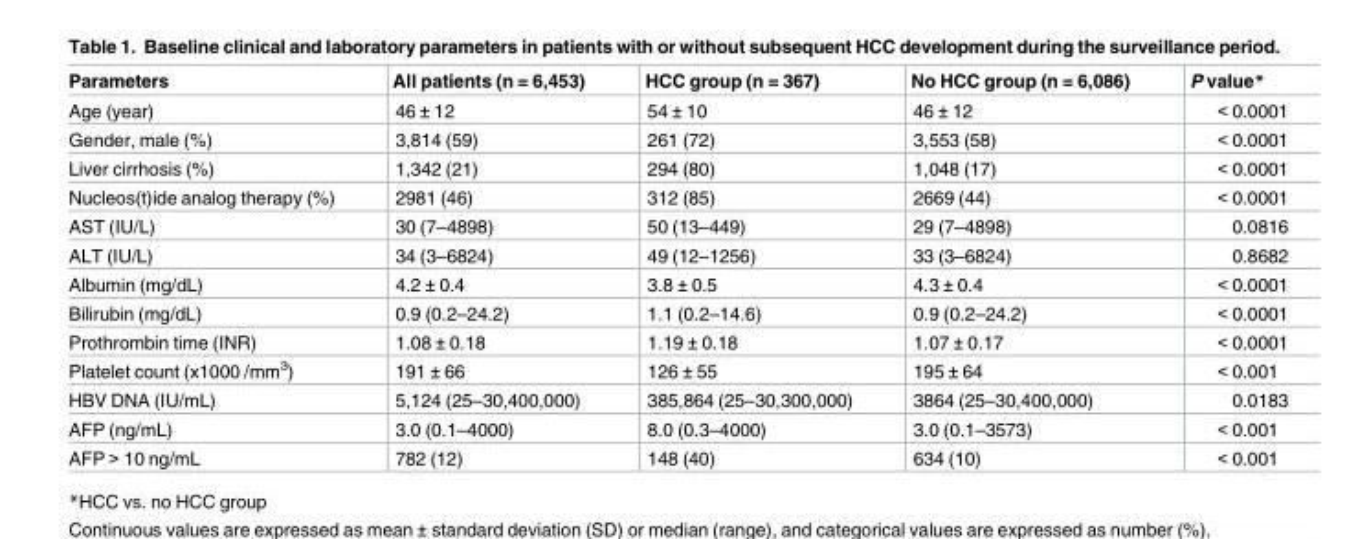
<table><thead><tr><td>Parameters</td><td>All patients (n = 6,453)</td><td>HCC group (n = 367)</td><td>No HCC group (n = 6,086)</td><td>P value*</td></tr></thead><tbody><tr><td>Age (year)</td><td>46 ± 12</td><td>54 ± 10</td><td>46 ± 12</td><td>&lt; 0.0001</td></tr><tr><td>Gender, male (%)</td><td>3,814 (59)</td><td>261 (72)</td><td>3,553 (58)</td><td>&lt; 0.0001</td></tr><tr><td>Liver cirrhosis (%)</td><td>1,342 (21)</td><td>294 (80)</td><td>1,048 (17)</td><td>&lt; 0.0001</td></tr><tr><td>Nucleos(t)ide analog therapy (%)</td><td>2981 (46)</td><td>312 (85)</td><td>2669 (44)</td><td>&lt; 0.0001</td></tr><tr><td>AST (IU/L)</td><td>30 (7–4898)</td><td>50 (13–449)</td><td>29 (7–4898)</td><td>0.0816</td></tr><tr><td>ALT (IU/L)</td><td>34 (3–6824)</td><td>49 (12–1256)</td><td>33 (3–6824)</td><td>0.8682</td></tr><tr><td>Albumin (mg/dL)</td><td>4.2 ± 0.4</td><td>3.8 ± 0.5</td><td>4.3 ± 0.4</td><td>&lt; 0.0001</td></tr><tr><td>Bilirubin (mg/dL)</td><td>0.9 (0.2–24.2)</td><td>1.1 (0.2–14.6)</td><td>0.9 (0.2–24.2)</td><td>&lt; 0.0001</td></tr><tr><td>Prothrombin time (INR)</td><td>1.08 ± 0.18</td><td>1.19 ± 0.18</td><td>1.07 ± 0.17</td><td>&lt; 0.0001</td></tr><tr><td>Platelet count (x1000 /mm<sup>3</sup>)</td><td>191 ± 66</td><td>126 ± 55</td><td>195 ± 64</td><td>&lt; 0.001</td></tr><tr><td>HBV DNA (IU/mL)</td><td>5,124 (25–30,400,000)</td><td>385,864 (25–30,300,000)</td><td>3864 (25–30,400,000)</td><td>0.0183</td></tr><tr><td>AFP (ng/mL)</td><td>3.0 (0.1–4000)</td><td>8.0 (0.3–4000)</td><td>3.0 (0.1–3573)</td><td>&lt; 0.001</td></tr><tr><td>AFP &gt; 10 ng/mL</td><td>782 (12)</td><td>148 (40)</td><td>634 (10)</td><td>&lt; 0.001</td></tr></tbody></table>